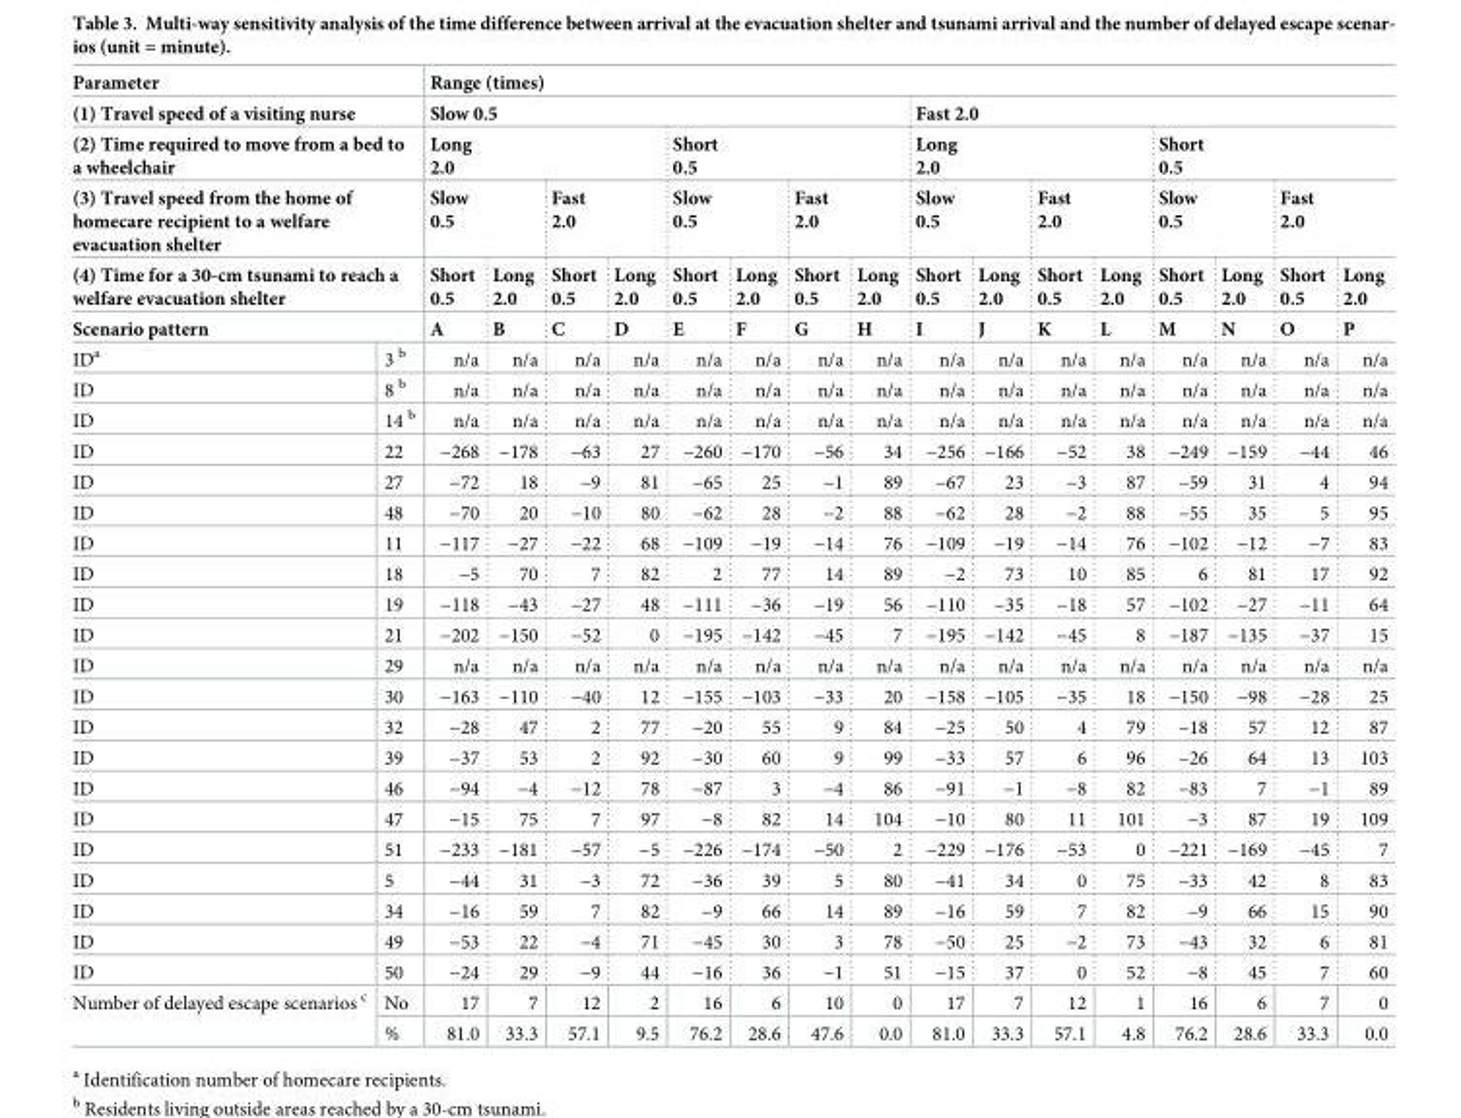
<table><thead><tr><td rowspan="6" colspan="2">Parameter (1) Travel speed of a visiting nurse (2) Time required to move from a bed to a wheelchair (3) Travel speed from the home of homecare recipient to a welfare evacuation shelter (4) Time for a 30-cm tsunami to reach a welfare evacuation shelter Scenario pattern</td><td colspan="16">Range (times)</td></tr><tr><td colspan="8">Slow 0.5</td><td colspan="8">Fast 2.0</td></tr><tr><td colspan="4">Long 2.0</td><td colspan="4">Short 0.5</td><td colspan="4">Long 2.0</td><td colspan="4">Short 0.5</td></tr><tr><td colspan="2">Slow 0.5</td><td colspan="2">Fast 2.0</td><td colspan="2">Slow 0.5</td><td colspan="2">Fast 2.0</td><td colspan="2">Slow 0.5</td><td colspan="2">Fast 2.0</td><td colspan="2">Slow 0.5</td><td colspan="2">Fast 2.0</td></tr><tr><td rowspan="3">Short 0.5 A n/a</td><td rowspan="3">Long 2.0 B n/a</td><td rowspan="3">Short 0.5 C n/a</td><td rowspan="3">Long 2.0 D n/a</td><td rowspan="3">Short 0.5 E n/a</td><td rowspan="3">Long 2.0 F n/a</td><td rowspan="3">Short 0.5 G n/a</td><td rowspan="3">Long 2.0 H n/a</td><td rowspan="3">Short 0.5 I n/a</td><td rowspan="3">Long 2.0 J n/a</td><td rowspan="3">Short 0.5 K n/a</td><td rowspan="3">Long 2.0 L n/a</td><td rowspan="3">Short 0.5 M n/a</td><td rowspan="3">Long 2.0 N n/a</td><td rowspan="3">Short 0.5 O n/a</td><td rowspan="3">Long 2.0 P n/a</td></tr><tr></tr><tr><td>ID<sup>a</sup></td><td>3 <sup>b</sup></td></tr></thead><tbody><tr><td>ID</td><td>8 <sup>b</sup></td><td>n/a</td><td>n/a</td><td>n/a</td><td>n/a</td><td>n/a</td><td>n/a</td><td>n/a</td><td>n/a</td><td>n/a</td><td>n/a</td><td>n/a</td><td>n/a</td><td>n/a</td><td>n/a</td><td>n/a</td><td>n/a</td></tr><tr><td>ID</td><td>14 <sup>b</sup></td><td>n/a</td><td>n/a</td><td>n/a</td><td>n/a</td><td>n/a</td><td>n/a</td><td>n/a</td><td>n/a</td><td>n/a</td><td>n/a</td><td>n/a</td><td>n/a</td><td>n/a</td><td>n/a</td><td>n/a</td><td>n/a</td></tr><tr><td>ID</td><td>22</td><td>−268</td><td>−178</td><td>−63</td><td>27</td><td>−260</td><td>−170</td><td>−56</td><td>34</td><td>−256</td><td>−166</td><td>−52</td><td>38</td><td>−249</td><td>−159</td><td>−44</td><td>46</td></tr><tr><td>ID</td><td>27</td><td>−72</td><td>18</td><td>−9</td><td>81</td><td>−65</td><td>25</td><td>−1</td><td>89</td><td>−67</td><td>23</td><td>−3</td><td>87</td><td>−59</td><td>31</td><td>4</td><td>94</td></tr><tr><td>ID</td><td>48</td><td>−70</td><td>20</td><td>−10</td><td>80</td><td>−62</td><td>28</td><td>−2</td><td>88</td><td>−62</td><td>28</td><td>−2</td><td>88</td><td>−55</td><td>35</td><td>5</td><td>95</td></tr><tr><td>ID</td><td>11</td><td>−117</td><td>−27</td><td>−22</td><td>68</td><td>−109</td><td>−19</td><td>−14</td><td>76</td><td>−109</td><td>−19</td><td>−14</td><td>76</td><td>−102</td><td>−12</td><td>−7</td><td>83</td></tr><tr><td>ID</td><td>18</td><td>−5</td><td>70</td><td>7</td><td>82</td><td>2</td><td>77</td><td>14</td><td>89</td><td>−2</td><td>73</td><td>10</td><td>85</td><td>6</td><td>81</td><td>17</td><td>92</td></tr><tr><td>ID</td><td>19</td><td>−118</td><td>−43</td><td>−27</td><td>48</td><td>−111</td><td>−36</td><td>−19</td><td>56</td><td>−110</td><td>−35</td><td>−18</td><td>57</td><td>−102</td><td>−27</td><td>−11</td><td>64</td></tr><tr><td>ID</td><td>21</td><td>−202</td><td>−150</td><td>−52</td><td>0</td><td>−195</td><td>−142</td><td>−45</td><td>7</td><td>−195</td><td>−142</td><td>−45</td><td>8</td><td>−187</td><td>−135</td><td>−37</td><td>15</td></tr><tr><td>ID</td><td>29</td><td>n/a</td><td>n/a</td><td>n/a</td><td>n/a</td><td>n/a</td><td>n/a</td><td>n/a</td><td>n/a</td><td>n/a</td><td>n/a</td><td>n/a</td><td>n/a</td><td>n/a</td><td>n/a</td><td>n/a</td><td>n/a</td></tr><tr><td>ID</td><td>30</td><td>−163</td><td>−110</td><td>−40</td><td>12</td><td>−155</td><td>−103</td><td>−33</td><td>20</td><td>−158</td><td>−105</td><td>−35</td><td>18</td><td>−150</td><td>−98</td><td>−28</td><td>25</td></tr><tr><td>ID</td><td>32</td><td>−28</td><td>47</td><td>2</td><td>77</td><td>−20</td><td>55</td><td>9</td><td>84</td><td>−25</td><td>50</td><td>4</td><td>79</td><td>−18</td><td>57</td><td>12</td><td>87</td></tr><tr><td>ID</td><td>39</td><td>−37</td><td>53</td><td>2</td><td>92</td><td>−30</td><td>60</td><td>9</td><td>99</td><td>−33</td><td>57</td><td>6</td><td>96</td><td>−26</td><td>64</td><td>13</td><td>103</td></tr><tr><td>ID</td><td>46</td><td>−94</td><td>−4</td><td>−12</td><td>78</td><td>−87</td><td>3</td><td>−4</td><td>86</td><td>−91</td><td>−1</td><td>−8</td><td>82</td><td>−83</td><td>7</td><td>−1</td><td>89</td></tr><tr><td>ID</td><td>47</td><td>−15</td><td>75</td><td>7</td><td>97</td><td>−8</td><td>82</td><td>14</td><td>104</td><td>−10</td><td>80</td><td>11</td><td>101</td><td>−3</td><td>87</td><td>19</td><td>109</td></tr><tr><td>ID</td><td>51</td><td>−233</td><td>−181</td><td>−57</td><td>−5</td><td>−226</td><td>−174</td><td>−50</td><td>2</td><td>−229</td><td>−176</td><td>−53</td><td>0</td><td>−221</td><td>−169</td><td>−45</td><td>7</td></tr><tr><td>ID</td><td>5</td><td>−44</td><td>31</td><td>−3</td><td>72</td><td>−36</td><td>39</td><td>5</td><td>80</td><td>−41</td><td>34</td><td>0</td><td>75</td><td>−33</td><td>42</td><td>8</td><td>83</td></tr><tr><td>ID</td><td>34</td><td>−16</td><td>59</td><td>7</td><td>82</td><td>−9</td><td>66</td><td>14</td><td>89</td><td>−16</td><td>59</td><td>7</td><td>82</td><td>−9</td><td>66</td><td>15</td><td>90</td></tr><tr><td>ID</td><td>49</td><td>−53</td><td>22</td><td>−4</td><td>71</td><td>−45</td><td>30</td><td>3</td><td>78</td><td>−50</td><td>25</td><td>−2</td><td>73</td><td>−43</td><td>32</td><td>6</td><td>81</td></tr><tr><td>ID</td><td>50</td><td>−24</td><td>29</td><td>−9</td><td>44</td><td>−16</td><td>36</td><td>−1</td><td>51</td><td>−15</td><td>37</td><td>0</td><td>52</td><td>−8</td><td>45</td><td>7</td><td>60</td></tr><tr><td rowspan="2">Number of delayed escape scenarios <sup>c</sup></td><td>No</td><td>17</td><td>7</td><td>12</td><td>2</td><td>16</td><td>6</td><td>10</td><td>0</td><td>17</td><td>7</td><td>12</td><td>1</td><td>16</td><td>6</td><td>7</td><td>0</td></tr><tr><td>%</td><td>81.0</td><td>33.3</td><td>57.1</td><td>9.5</td><td>76.2</td><td>28.6</td><td>47.6</td><td>0.0</td><td>81.0</td><td>33.3</td><td>57.1</td><td>4.8</td><td>76.2</td><td>28.6</td><td>33.3</td><td>0.0</td></tr></tbody></table>